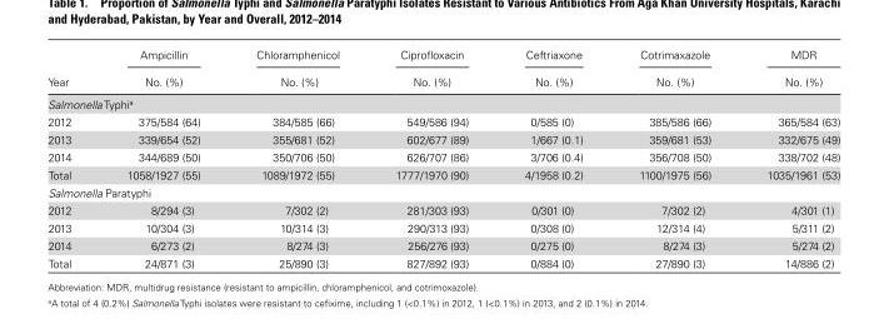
<table><thead><tr><td rowspan="2">Year</td><td rowspan="2">Ampicillin No. (%)</td><td rowspan="2">Chloramphenicol No. (%)</td><td rowspan="2">Ciprofloxacin No. (%)</td><td rowspan="2">Ceftriaxone No. (%)</td><td rowspan="2">Cotrimaxazole No. (%)</td><td rowspan="2">MDR No. (%)</td></tr><tr></tr></thead><tbody><tr><td colspan="7">Salmonella Typhi<sup>a</sup></td></tr><tr><td>2012</td><td>375/584 (64)</td><td>384/585 (66)</td><td>549/586 (94)</td><td>0/585 (0)</td><td>385/586 (66)</td><td>365/584 (63)</td></tr><tr><td>2013</td><td>339/654 (52)</td><td>355/681 (52)</td><td>602/677 (89)</td><td>1/667 (0.1)</td><td>359/681 (53)</td><td>332/675 (49)</td></tr><tr><td>2014</td><td>344/689 (50)</td><td>350/706 (50)</td><td>626/707 (86)</td><td>3/706 (0.4)</td><td>356/708 (50)</td><td>338/702 (48)</td></tr><tr><td>Total</td><td>1058/1927 (55)</td><td>1089/1972 (55)</td><td>1777/1970 (90)</td><td>4/1958 (0.2)</td><td>1100/1975 (56)</td><td>1035/1961 (53)</td></tr><tr><td colspan="7">Salmonella Paratyphi</td></tr><tr><td>2012</td><td>8/294 (3)</td><td>7/302 (2)</td><td>281/303 (93)</td><td>0/301 (0)</td><td>7/302 (2)</td><td>4/301 (1)</td></tr><tr><td>2013</td><td>10/304 (3)</td><td>10/314 (3)</td><td>290/313 (93)</td><td>0/308 (0)</td><td>12/314 (4)</td><td>5/311 (2)</td></tr><tr><td>2014</td><td>6/273 (2)</td><td>8/274 (3)</td><td>256/276 (93)</td><td>0/275 (0)</td><td>8/274 (3)</td><td>5/274 (2)</td></tr><tr><td>Total</td><td>24/871 (3)</td><td>25/890 (3)</td><td>827/892 (93)</td><td>0/884 (0)</td><td>27/890 (3)</td><td>14/886 (2)</td></tr></tbody></table>